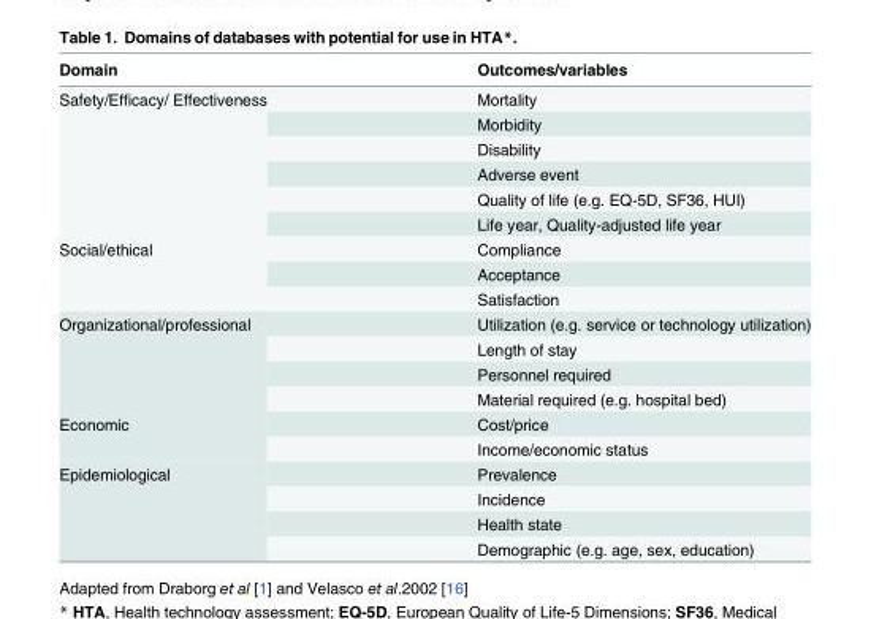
<table><thead><tr><td>Domain</td><td>Outcomes/variables</td></tr></thead><tbody><tr><td rowspan="6">Safety/Efficacy/ Effectiveness</td><td>Mortality</td></tr><tr><td>Morbidity</td></tr><tr><td>Disability</td></tr><tr><td>Adverse event</td></tr><tr><td>Quality of life (e.g. EQ-5D, SF36, HUI)</td></tr><tr><td>Life year, Quality-adjusted life year</td></tr><tr><td rowspan="3">Social/ethical</td><td>Compliance</td></tr><tr><td>Acceptance</td></tr><tr><td>Satisfaction</td></tr><tr><td rowspan="4">Organizational/professional</td><td>Utilization (e.g. service or technology utilization)</td></tr><tr><td>Length of stay</td></tr><tr><td>Personnel required</td></tr><tr><td>Material required (e.g. hospital bed)</td></tr><tr><td rowspan="2">Economic</td><td>Cost/price</td></tr><tr><td>Income/economic status</td></tr><tr><td rowspan="4">Epidemiological</td><td>Prevalence</td></tr><tr><td>Incidence</td></tr><tr><td>Health state</td></tr><tr><td>Demographic (e.g. age, sex, education)</td></tr></tbody></table>